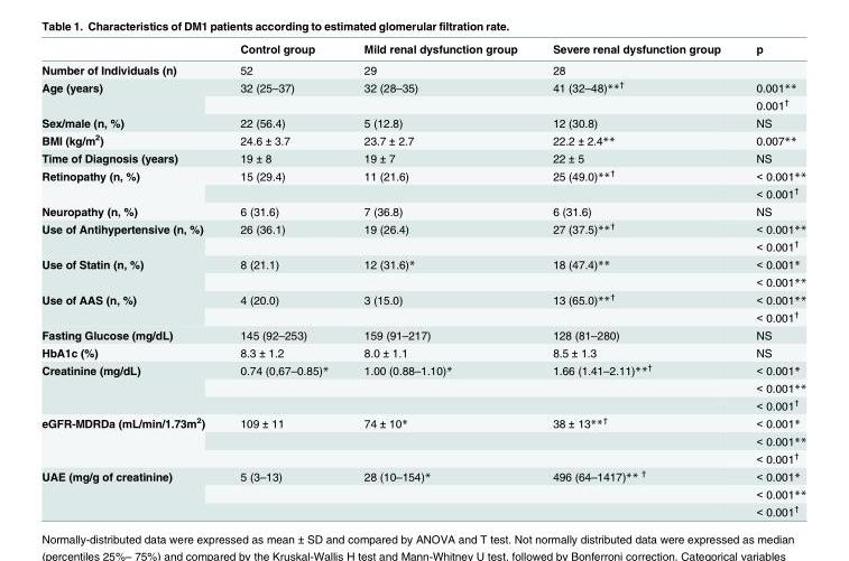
<table><thead><tr><td></td><td>Control group</td><td>Mild renal dysfunction group</td><td>Severe renal dysfunction group</td><td>p</td></tr></thead><tbody><tr><td>Number of Individuals (n)</td><td>52</td><td>29</td><td>28</td><td></td></tr><tr><td rowspan="2">Age (years)</td><td>32 (25–37)</td><td>32 (28–35)</td><td>41 (32–48)**<sup>†</sup></td><td>0.001**</td></tr><tr><td></td><td></td><td></td><td>0.001<sup>†</sup></td></tr><tr><td>Sex/male (n, %)</td><td>22 (56.4)</td><td>5 (12.8)</td><td>12 (30.8)</td><td>NS</td></tr><tr><td>BMI (kg/m<sup>2</sup>)</td><td>24.6 ± 3.7</td><td>23.7 ± 2.7</td><td>22.2 ± 2.4**</td><td>0.007**</td></tr><tr><td>Time of Diagnosis (years)</td><td>19 ± 8</td><td>19 ± 7</td><td>22 ± 5</td><td>NS</td></tr><tr><td rowspan="2">Retinopathy (n, %)</td><td>15 (29.4)</td><td>11 (21.6)</td><td>25 (49.0)**<sup>†</sup></td><td>&lt; 0.001**</td></tr><tr><td></td><td></td><td></td><td>&lt; 0.001<sup>†</sup></td></tr><tr><td>Neuropathy (n, %)</td><td>6 (31.6)</td><td>7 (36.8)</td><td>6 (31.6)</td><td>NS</td></tr><tr><td rowspan="2">Use of Antihypertensive (n, %)</td><td>26 (36.1)</td><td>19 (26.4)</td><td>27 (37.5)**<sup>†</sup></td><td>&lt; 0.001**</td></tr><tr><td></td><td></td><td></td><td>&lt; 0.001<sup>†</sup></td></tr><tr><td rowspan="2">Use of Statin (n, %)</td><td>8 (21.1)</td><td>12 (31.6)*</td><td>18 (47.4)**</td><td>&lt; 0.001*</td></tr><tr><td></td><td></td><td></td><td>&lt; 0.001**</td></tr><tr><td rowspan="2">Use of AAS (n, %)</td><td>4 (20.0)</td><td>3 (15.0)</td><td>13 (65.0)**<sup>†</sup></td><td>&lt; 0.001**</td></tr><tr><td></td><td></td><td></td><td>&lt; 0.001<sup>†</sup></td></tr><tr><td>Fasting Glucose (mg/dL)</td><td>145 (92–253)</td><td>159 (91–217)</td><td>128 (81–280)</td><td>NS</td></tr><tr><td>HbA1c (%)</td><td>8.3 ± 1.2</td><td>8.0 ± 1.1</td><td>8.5 ± 1.3</td><td>NS</td></tr><tr><td rowspan="3">Creatinine (mg/dL)</td><td>0.74 (0,67–0.85)*</td><td>1.00 (0.88–1.10)*</td><td>1.66 (1.41–2.11)**<sup>†</sup></td><td>&lt; 0.001*</td></tr><tr><td></td><td></td><td></td><td>&lt; 0.001**</td></tr><tr><td></td><td></td><td></td><td>&lt; 0.001<sup>†</sup></td></tr><tr><td rowspan="3">eGFR-MDRDa (mL/min/1.73m<sup>2</sup>)</td><td>109 ± 11</td><td>74 ± 10*</td><td>38 ± 13**<sup>†</sup></td><td>&lt; 0.001*</td></tr><tr><td></td><td></td><td></td><td>&lt; 0.001**</td></tr><tr><td></td><td></td><td></td><td>&lt; 0.001<sup>†</sup></td></tr><tr><td rowspan="3">UAE (mg/g of creatinine)</td><td>5 (3–13)</td><td>28 (10–154)*</td><td>496 (64–1417)** <sup>†</sup></td><td>&lt; 0.001*</td></tr><tr><td></td><td></td><td></td><td>&lt; 0.001**</td></tr><tr><td></td><td></td><td></td><td>&lt; 0.001<sup>†</sup></td></tr></tbody></table>